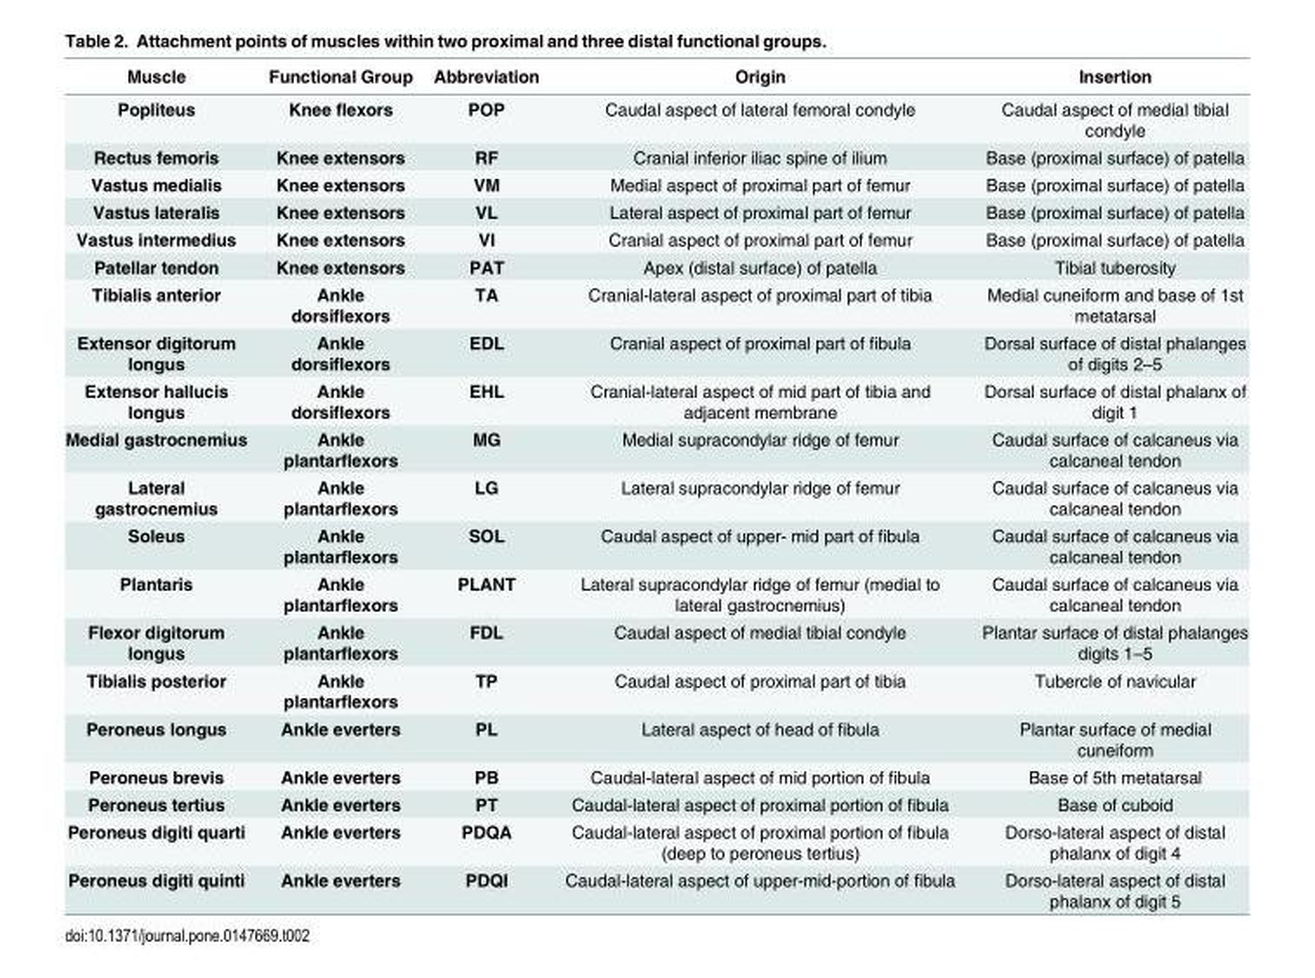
<table><thead><tr><td>Muscle</td><td>Functional Group</td><td>Abbreviation</td><td>Origin</td><td>Insertion</td></tr></thead><tbody><tr><td>Popliteus</td><td>Knee flexors</td><td>POP</td><td>Caudal aspect of lateral femoral condyle</td><td>Caudal aspect of medial tibial condyle</td></tr><tr><td>Rectus femoris</td><td>Knee extensors</td><td>RF</td><td>Cranial inferior iliac spine of ilium</td><td>Base (proximal surface) of patella</td></tr><tr><td>Vastus medialis</td><td>Knee extensors</td><td>VM</td><td>Medial aspect of proximal part of femur</td><td>Base (proximal surface) of patella</td></tr><tr><td>Vastus lateralis</td><td>Knee extensors</td><td>VL</td><td>Lateral aspect of proximal part of femur</td><td>Base (proximal surface) of patella</td></tr><tr><td>Vastus intermedius</td><td>Knee extensors</td><td>VI</td><td>Cranial aspect of proximal part of femur</td><td>Base (proximal surface) of patella</td></tr><tr><td>Patellar tendon</td><td>Knee extensors</td><td>PAT</td><td>Apex (distal surface) of patella</td><td>Tibial tuberosity</td></tr><tr><td>Tibialis anterior</td><td>Ankle dorsiflexors</td><td>TA</td><td>Cranial-lateral aspect of proximal part of tibia</td><td>Medial cuneiform and base of 1st metatarsal</td></tr><tr><td>Extensor digitorum longus</td><td>Ankle dorsiflexors</td><td>EDL</td><td>Cranial aspect of proximal part of fibula</td><td>Dorsal surface of distal phalanges of digits 2–5</td></tr><tr><td>Extensor hallucis longus</td><td>Ankle dorsiflexors</td><td>EHL</td><td>Cranial-lateral aspect of mid part of tibia and adjacent membrane</td><td>Dorsal surface of distal phalanx of digit 1</td></tr><tr><td>Medial gastrocnemius</td><td>Ankle plantarflexors</td><td>MG</td><td>Medial supracondylar ridge of femur</td><td>Caudal surface of calcaneus via calcaneal tendon</td></tr><tr><td>Lateral gastrocnemius</td><td>Ankle plantarflexors</td><td>LG</td><td>Lateral supracondylar ridge of femur</td><td>Caudal surface of calcaneus via calcaneal tendon</td></tr><tr><td>Soleus</td><td>Ankle plantarflexors</td><td>SOL</td><td>Caudal aspect of upper- mid part of fibula</td><td>Caudal surface of calcaneus via calcaneal tendon</td></tr><tr><td>Plantaris</td><td>Ankle plantarflexors</td><td>PLANT</td><td>Lateral supracondylar ridge of femur (medial to lateral gastrocnemius)</td><td>Caudal surface of calcaneus via calcaneal tendon</td></tr><tr><td>Flexor digitorum longus</td><td>Ankle plantarflexors</td><td>FDL</td><td>Caudal aspect of medial tibial condyle</td><td>Plantar surface of distal phalanges digits 1–5</td></tr><tr><td>Tibialis posterior</td><td>Ankle plantarflexors</td><td>TP</td><td>Caudal aspect of proximal part of tibia</td><td>Tubercle of navicular</td></tr><tr><td>Peroneus longus</td><td>Ankle everters</td><td>PL</td><td>Lateral aspect of head of fibula</td><td>Plantar surface of medial cuneiform</td></tr><tr><td>Peroneus brevis</td><td>Ankle everters</td><td>PB</td><td>Caudal-lateral aspect of mid portion of fibula</td><td>Base of 5th metatarsal</td></tr><tr><td>Peroneus tertius</td><td>Ankle everters</td><td>PT</td><td>Caudal-lateral aspect of proximal portion of fibula</td><td>Base of cuboid</td></tr><tr><td>Peroneus digiti quarti</td><td>Ankle everters</td><td>PDQA</td><td>Caudal-lateral aspect of proximal portion of fibula (deep to peroneus tertius)</td><td>Dorso-lateral aspect of distal phalanx of digit 4</td></tr><tr><td>Peroneus digiti quinti</td><td>Ankle everters</td><td>PDQI</td><td>Caudal-lateral aspect of upper-mid-portion of fibula</td><td>Dorso-lateral aspect of distal phalanx of digit 5</td></tr></tbody></table>